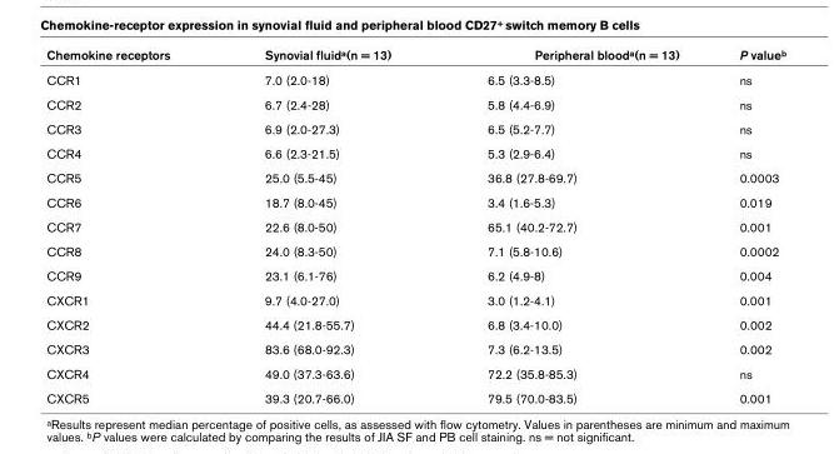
<table><thead><tr><td>Chemokine receptors</td><td>Synovial fluid<sup>a</sup>(n = 13)</td><td>Peripheral blood<sup>a</sup>(n = 13)</td><td>P value<sup>b</sup></td></tr></thead><tbody><tr><td>CCR1</td><td>7.0 (2.0-18)</td><td>6.5 (3.3-8.5)</td><td>ns</td></tr><tr><td>CCR2</td><td>6.7 (2.4-28)</td><td>5.8 (4.4-6.9)</td><td>ns</td></tr><tr><td>CCR3</td><td>6.9 (2.0-27.3)</td><td>6.5 (5.2-7.7)</td><td>ns</td></tr><tr><td>CCR4</td><td>6.6 (2.3-21.5)</td><td>5.3 (2.9-6.4)</td><td>ns</td></tr><tr><td>CCR5</td><td>25.0 (5.5-45)</td><td>36.8 (27.8-69.7)</td><td>0.0003</td></tr><tr><td>CCR6</td><td>18.7 (8.0-45)</td><td>3.4 (1.6-5.3)</td><td>0.019</td></tr><tr><td>CCR7</td><td>22.6 (8.0-50)</td><td>65.1 (40.2-72.7)</td><td>0.001</td></tr><tr><td>CCR8</td><td>24.0 (8.3-50)</td><td>7.1 (5.8-10.6)</td><td>0.0002</td></tr><tr><td>CCR9</td><td>23.1 (6.1-76)</td><td>6.2 (4.9-8)</td><td>0.004</td></tr><tr><td>CXCR1</td><td>9.7 (4.0-27.0)</td><td>3.0 (1.2-4.1)</td><td>0.001</td></tr><tr><td>CXCR2</td><td>44.4 (21.8-55.7)</td><td>6.8 (3.4-10.0)</td><td>0.002</td></tr><tr><td>CXCR3</td><td>83.6 (68.0-92.3)</td><td>7.3 (6.2-13.5)</td><td>0.002</td></tr><tr><td>CXCR4</td><td>49.0 (37.3-63.6)</td><td>72.2 (35.8-85.3)</td><td>ns</td></tr><tr><td>CXCR5</td><td>39.3 (20.7-66.0)</td><td>79.5 (70.0-83.5)</td><td>0.001</td></tr></tbody></table>